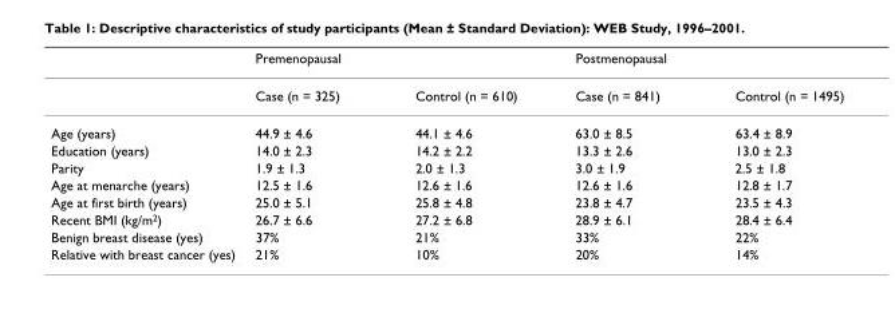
<table><thead><tr><td rowspan="2"></td><td colspan="2">Premenopausal</td><td colspan="2">Postmenopausal</td></tr><tr><td>Case (n = 325)</td><td>Control (n = 610)</td><td>Case (n = 841)</td><td>Control (n = 1495)</td></tr></thead><tbody><tr><td>Age (years)</td><td>44.9 ± 4.6</td><td>44.1 ± 4.6</td><td>63.0 ± 8.5</td><td>63.4 ± 8.9</td></tr><tr><td>Education (years)</td><td>14.0 ± 2.3</td><td>14.2 ± 2.2</td><td>13.3 ± 2.6</td><td>13.0 ± 2.3</td></tr><tr><td>Parity</td><td>1.9 ± 1.3</td><td>2.0 ± 1.3</td><td>3.0 ± 1.9</td><td>2.5 ± 1.8</td></tr><tr><td>Age at menarche (years)</td><td>12.5 ± 1.6</td><td>12.6 ± 1.6</td><td>12.6 ± 1.6</td><td>12.8 ± 1.7</td></tr><tr><td>Age at first birth (years)</td><td>25.0 ± 5.1</td><td>25.8 ± 4.8</td><td>23.8 ± 4.7</td><td>23.5 ± 4.3</td></tr><tr><td>Recent BMI (kg/m<sup>2</sup>)</td><td>26.7 ± 6.6</td><td>27.2 ± 6.8</td><td>28.9 ± 6.1</td><td>28.4 ± 6.4</td></tr><tr><td>Benign breast disease (yes)</td><td>37%</td><td>21%</td><td>33%</td><td>22%</td></tr><tr><td>Relative with breast cancer (yes)</td><td>21%</td><td>10%</td><td>20%</td><td>14%</td></tr></tbody></table>